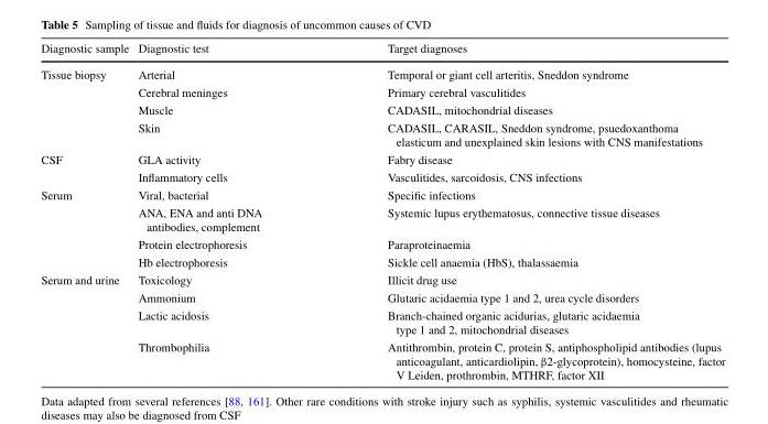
<table><thead><tr><td>Diagnostic sample</td><td>Diagnostic test</td><td>Target diagnoses</td></tr></thead><tbody><tr><td rowspan="4">Tissue biopsy</td><td>Arterial</td><td>Temporal or giant cell arteritis, Sneddon syndrome</td></tr><tr><td>Cerebral meninges</td><td>Primary cerebral vasculitides</td></tr><tr><td>Muscle</td><td>CADASIL, mitochondrial diseases</td></tr><tr><td>Skin</td><td>CADASIL, CARASIL, Sneddon syndrome, psuedoxanthoma elasticum and unexplained skin lesions with CNS manifestations</td></tr><tr><td rowspan="2">CSF</td><td>GLA activity</td><td>Fabry disease</td></tr><tr><td>Inflammatory cells</td><td>Vasculitides, sarcoidosis, CNS infections</td></tr><tr><td rowspan="4">Serum</td><td>Viral, bacterial</td><td>Specific infections</td></tr><tr><td>ANA, ENA and anti DNA antibodies, complement</td><td>Systemic lupus erythematosus, connective tissue diseases</td></tr><tr><td>Protein electrophoresis</td><td>Paraproteinaemia</td></tr><tr><td>Hb electrophoresis</td><td>Sickle cell anaemia (HbS), thalassaemia</td></tr><tr><td rowspan="4">Serum and urine</td><td>Toxicology</td><td>Illicit drug use</td></tr><tr><td>Ammonium</td><td>Glutaric acidaemia type 1 and 2, urea cycle disorders</td></tr><tr><td>Lactic acidosis</td><td>Branch-chained organic acidurias, glutaric acidaemia type 1 and 2, mitochondrial diseases</td></tr><tr><td>Thrombophilia</td><td>Antithrombin, protein C, protein S, antiphospholipid antibodies (lupus anticoagulant, anticardiolipin, β2-glycoprotein), homocysteine, factor V Leiden, prothrombin, MTHRF, factor XII</td></tr></tbody></table>